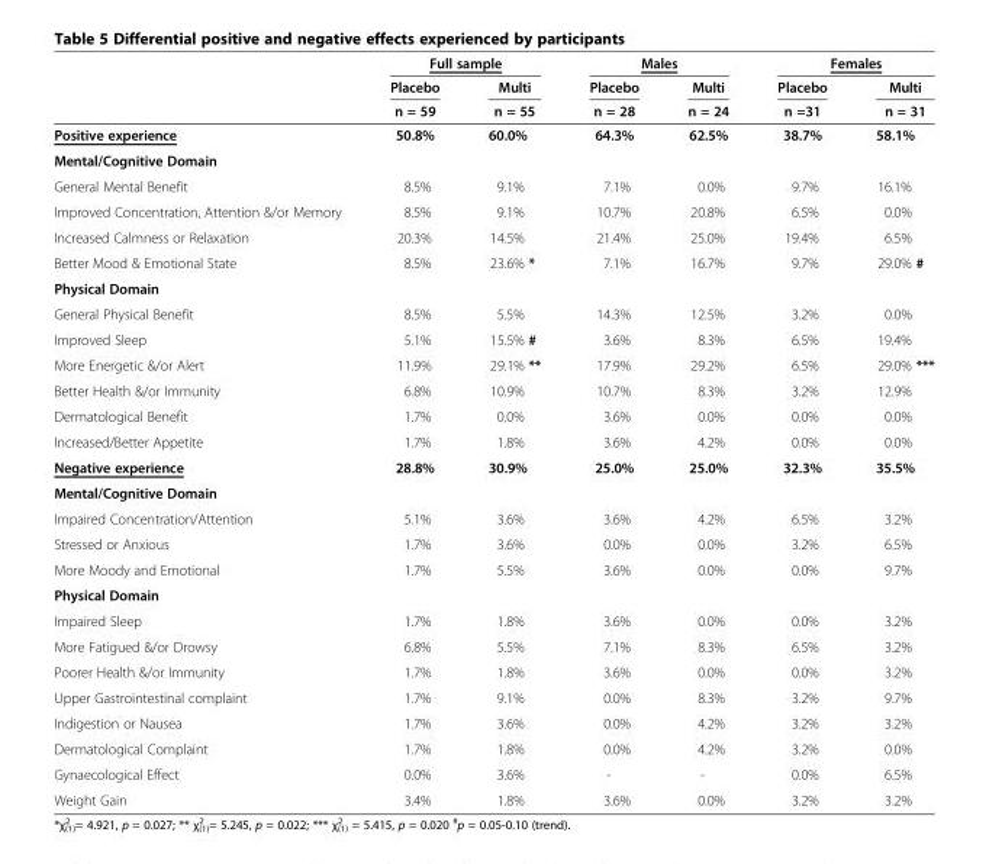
<table><thead><tr><td rowspan="3"></td><td colspan="2">Full sample</td><td colspan="2">Males</td><td colspan="2">Females</td></tr><tr><td rowspan="2">Placebo n = 59</td><td rowspan="2">Multi n = 55</td><td rowspan="2">Placebo n = 28</td><td rowspan="2">Multi n = 24</td><td rowspan="2">Placebo n =31</td><td rowspan="2">Multi n = 31</td></tr><tr></tr></thead><tbody><tr><td>Positive experience</td><td>50.8%</td><td>60.0%</td><td>64.3%</td><td>62.5%</td><td>38.7%</td><td>58.1%</td></tr><tr><td colspan="7">Mental/Cognitive Domain</td></tr><tr><td>General Mental Benefit</td><td>8.5%</td><td>9.1%</td><td>7.1%</td><td>0.0%</td><td>9.7%</td><td>16.1%</td></tr><tr><td>Improved Concentration, Attention &amp;/or Memory</td><td>8.5%</td><td>9.1%</td><td>10.7%</td><td>20.8%</td><td>6.5%</td><td>0.0%</td></tr><tr><td>Increased Calmness or Relaxation</td><td>20.3%</td><td>14.5%</td><td>21.4%</td><td>25.0%</td><td>19.4%</td><td>6.5%</td></tr><tr><td>Better Mood &amp; Emotional State</td><td>8.5%</td><td>23.6% *</td><td>7.1%</td><td>16.7%</td><td>9.7%</td><td>29.0% #</td></tr><tr><td colspan="7">Physical Domain</td></tr><tr><td>General Physical Benefit</td><td>8.5%</td><td>5.5%</td><td>14.3%</td><td>12.5%</td><td>3.2%</td><td>0.0%</td></tr><tr><td>Improved Sleep</td><td>5.1%</td><td>15.5% #</td><td>3.6%</td><td>8.3%</td><td>6.5%</td><td>19.4%</td></tr><tr><td>More Energetic &amp;/or Alert</td><td>11.9%</td><td>29.1% **</td><td>17.9%</td><td>29.2%</td><td>6.5%</td><td>29.0% ***</td></tr><tr><td>Better Health &amp;/or Immunity</td><td>6.8%</td><td>10.9%</td><td>10.7%</td><td>8.3%</td><td>3.2%</td><td>12.9%</td></tr><tr><td>Dermatological Benefit</td><td>1.7%</td><td>0.0%</td><td>3.6%</td><td>0.0%</td><td>0.0%</td><td>0.0%</td></tr><tr><td>Increased/Better Appetite</td><td>1.7%</td><td>1.8%</td><td>3.6%</td><td>4.2%</td><td>0.0%</td><td>0.0%</td></tr><tr><td>Negative experience</td><td>28.8%</td><td>30.9%</td><td>25.0%</td><td>25.0%</td><td>32.3%</td><td>35.5%</td></tr><tr><td colspan="7">Mental/Cognitive Domain</td></tr><tr><td>Impaired Concentration/Attention</td><td>5.1%</td><td>3.6%</td><td>3.6%</td><td>4.2%</td><td>6.5%</td><td>3.2%</td></tr><tr><td>Stressed or Anxious</td><td>1.7%</td><td>3.6%</td><td>0.0%</td><td>0.0%</td><td>3.2%</td><td>6.5%</td></tr><tr><td>More Moody and Emotional</td><td>1.7%</td><td>5.5%</td><td>3.6%</td><td>0.0%</td><td>0.0%</td><td>9.7%</td></tr><tr><td colspan="7">Physical Domain</td></tr><tr><td>Impaired Sleep</td><td>1.7%</td><td>1.8%</td><td>3.6%</td><td>0.0%</td><td>0.0%</td><td>3.2%</td></tr><tr><td>More Fatigued &amp;/or Drowsy</td><td>6.8%</td><td>5.5%</td><td>7.1%</td><td>8.3%</td><td>6.5%</td><td>3.2%</td></tr><tr><td>Poorer Health &amp;/or Immunity</td><td>1.7%</td><td>1.8%</td><td>3.6%</td><td>0.0%</td><td>0.0%</td><td>3.2%</td></tr><tr><td>Upper Gastrointestinal complaint</td><td>1.7%</td><td>9.1%</td><td>0.0%</td><td>8.3%</td><td>3.2%</td><td>9.7%</td></tr><tr><td>Indigestion or Nausea</td><td>1.7%</td><td>3.6%</td><td>0.0%</td><td>4.2%</td><td>3.2%</td><td>3.2%</td></tr><tr><td>Dermatological Complaint</td><td>1.7%</td><td>1.8%</td><td>0.0%</td><td>4.2%</td><td>3.2%</td><td>0.0%</td></tr><tr><td>Gynaecological Effect</td><td>0.0%</td><td>3.6%</td><td>-</td><td>-</td><td>0.0%</td><td>6.5%</td></tr><tr><td>Weight Gain</td><td>3.4%</td><td>1.8%</td><td>3.6%</td><td>0.0%</td><td>3.2%</td><td>3.2%</td></tr></tbody></table>